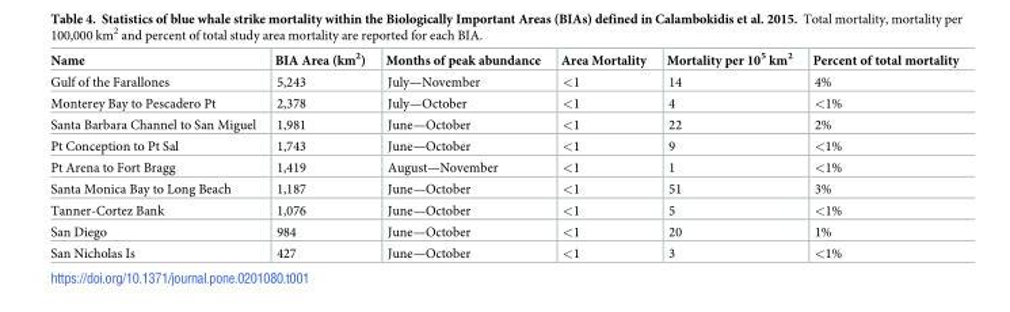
<table><thead><tr><td>Name</td><td>BIA Area (km<sup>2</sup>)</td><td>Months of peak abundance</td><td>Area Mortality</td><td>Mortality per 10<sup>5</sup> km<sup>2</sup></td><td>Percent of total mortality</td></tr></thead><tbody><tr><td>Gulf of the Farallones</td><td>5,243</td><td>July—November</td><td>&lt;1</td><td>14</td><td>4%</td></tr><tr><td>Monterey Bay to Pescadero Pt</td><td>2,378</td><td>July—October</td><td>&lt;1</td><td>4</td><td>&lt;1%</td></tr><tr><td>Santa Barbara Channel to San Miguel</td><td>1,981</td><td>June—October</td><td>&lt;1</td><td>22</td><td>2%</td></tr><tr><td>Pt Conception to Pt Sal</td><td>1,743</td><td>June—October</td><td>&lt;1</td><td>9</td><td>&lt;1%</td></tr><tr><td>Pt Arena to Fort Bragg</td><td>1,419</td><td>August—November</td><td>&lt;1</td><td>1</td><td>&lt;1%</td></tr><tr><td>Santa Monica Bay to Long Beach</td><td>1,187</td><td>June—October</td><td>&lt;1</td><td>51</td><td>3%</td></tr><tr><td>Tanner-Cortez Bank</td><td>1,076</td><td>June—October</td><td>&lt;1</td><td>5</td><td>&lt;1%</td></tr><tr><td>San Diego</td><td>984</td><td>June—October</td><td>&lt;1</td><td>20</td><td>1%</td></tr><tr><td>San Nicholas Is</td><td>427</td><td>June—October</td><td>&lt;1</td><td>3</td><td>&lt;1%</td></tr></tbody></table>